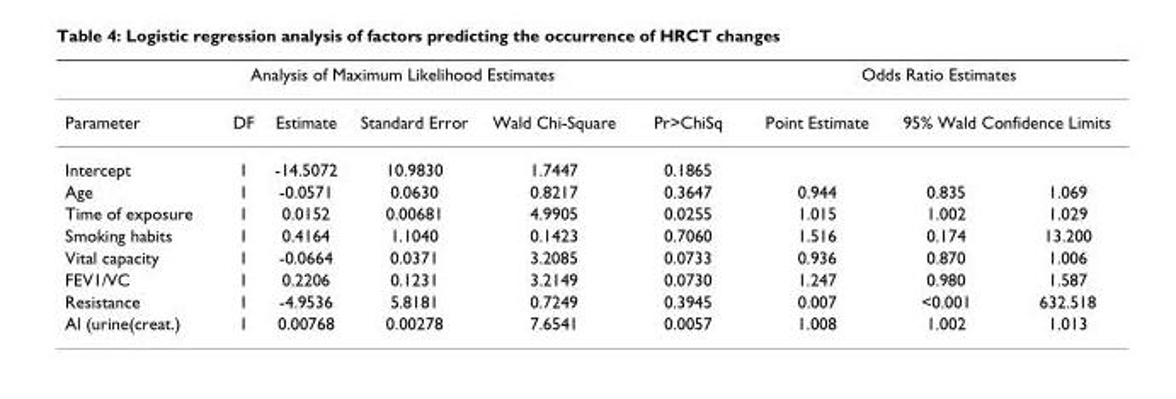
<table><thead><tr><td colspan="6">Analysis of Maximum Likelihood Estimates</td><td colspan="3">Odds Ratio Estimates</td></tr><tr><td rowspan="2">Parameter Intercept</td><td rowspan="2">DF 1</td><td rowspan="2">Estimate -14.5072</td><td rowspan="2">Standard Error 10.9830</td><td rowspan="2">Wald Chi-Square 1.7447</td><td rowspan="2">Pr&gt;ChiSq 0.1865</td><td rowspan="2">Point Estimate</td><td colspan="2">95% Wald Confidence Limits</td></tr><tr><td></td><td></td></tr></thead><tbody><tr><td>Age</td><td>1</td><td>-0.0571</td><td>0.0630</td><td>0.8217</td><td>0.3647</td><td>0.944</td><td>0.835</td><td>1.069</td></tr><tr><td>Time of exposure</td><td>1</td><td>0.0152</td><td>0.00681</td><td>4.9905</td><td>0.0255</td><td>1.015</td><td>1.002</td><td>1.029</td></tr><tr><td>Smoking habits</td><td>1</td><td>0.4164</td><td>1.1040</td><td>0.1423</td><td>0.7060</td><td>1.516</td><td>0.174</td><td>13.200</td></tr><tr><td>Vital capacity</td><td>1</td><td>-0.0664</td><td>0.0371</td><td>3.2085</td><td>0.0733</td><td>0.936</td><td>0.870</td><td>1.006</td></tr><tr><td>FEV1/VC</td><td>1</td><td>0.2206</td><td>0.1231</td><td>3.2149</td><td>0.0730</td><td>1.247</td><td>0.980</td><td>1.587</td></tr><tr><td>Resistance</td><td>1</td><td>-4.9536</td><td>5.8181</td><td>0.7249</td><td>0.3945</td><td>0.007</td><td>&lt;0.001</td><td>632.518</td></tr><tr><td>Al (urine(creat.)</td><td>1</td><td>0.00768</td><td>0.00278</td><td>7.6541</td><td>0.0057</td><td>1.008</td><td>1.002</td><td>1.013</td></tr></tbody></table>